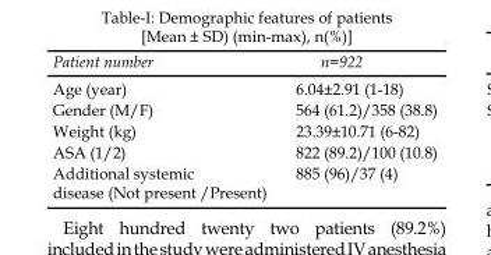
<table><thead><tr><td>Patient number</td><td>n=922</td></tr></thead><tbody><tr><td>Age (year)</td><td>6.04±2.91 (1-18)</td></tr><tr><td>Gender (M/F)</td><td>564 (61.2)/358 (38.8)</td></tr><tr><td>Weight (kg)</td><td>23.39±10.71 (6-82)</td></tr><tr><td>ASA (1/2)</td><td>822 (89.2)/100 (10.8)</td></tr><tr><td>Additional systemic disease (Not present /Present)</td><td>885 (96)/37 (4)</td></tr></tbody></table>